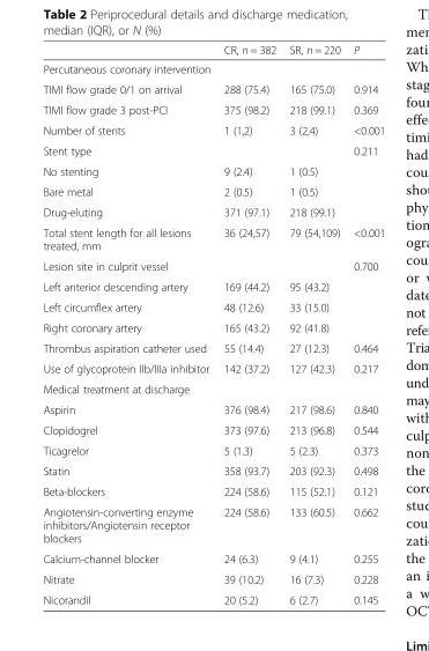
<table><thead><tr><td></td><td>CR, n = 382</td><td>SR, n = 220</td><td>P</td></tr></thead><tbody><tr><td colspan="4">Percutaneous coronary intervention</td></tr><tr><td>TIMI flow grade 0/1 on arrival</td><td>288 (75.4)</td><td>165 (75.0)</td><td>0.914</td></tr><tr><td>TIMI flow grade 3 post-PCI</td><td>375 (98.2)</td><td>218 (99.1)</td><td>0.369</td></tr><tr><td>Number of stents</td><td>1 (1,2)</td><td>3 (2,4)</td><td>&lt;0.001</td></tr><tr><td>Stent type</td><td></td><td></td><td>0.211</td></tr><tr><td>No stenting</td><td>9 (2.4)</td><td>1 (0.5)</td><td></td></tr><tr><td>Bare metal</td><td>2 (0.5)</td><td>1 (0.5)</td><td></td></tr><tr><td>Drug-eluting</td><td>371 (97.1)</td><td>218 (99.1)</td><td></td></tr><tr><td>Total stent length for all lesions treated, mm</td><td>36 (24,57)</td><td>79 (54,109)</td><td>&lt;0.001</td></tr><tr><td>Lesion site in culprit vessel</td><td></td><td></td><td>0.700</td></tr><tr><td>Left anterior descending artery</td><td>169 (44.2)</td><td>95 (43.2)</td><td></td></tr><tr><td>Left circumflex artery</td><td>48 (12.6)</td><td>33 (15.0)</td><td></td></tr><tr><td>Right coronary artery</td><td>165 (43.2)</td><td>92 (41.8)</td><td></td></tr><tr><td>Thrombus aspiration catheter used</td><td>55 (14.4)</td><td>27 (12.3)</td><td>0.464</td></tr><tr><td>Use of glycoprotein IIb/IIIa inhibitor</td><td>142 (37.2)</td><td>127 (42.3)</td><td>0.217</td></tr><tr><td colspan="4">Medical treatment at discharge</td></tr><tr><td>Aspirin</td><td>376 (98.4)</td><td>217 (98.6)</td><td>0.840</td></tr><tr><td>Clopidogrel</td><td>373 (97.6)</td><td>213 (96.8)</td><td>0.544</td></tr><tr><td>Ticagrelor</td><td>5 (1.3)</td><td>5 (2.3)</td><td>0.373</td></tr><tr><td>Statin</td><td>358 (93.7)</td><td>203 (92.3)</td><td>0.498</td></tr><tr><td>Beta-blockers</td><td>224 (58.6)</td><td>115 (52.1)</td><td>0.121</td></tr><tr><td>Angiotensin-converting enzyme inhibitors/Angiotensin receptor blockers</td><td>224 (58.6)</td><td>133 (60.5)</td><td>0.662</td></tr><tr><td>Calcium-channel blocker</td><td>24 (6.3)</td><td>9 (4.1)</td><td>0.255</td></tr><tr><td>Nitrate</td><td>39 (10.2)</td><td>16 (7.3)</td><td>0.228</td></tr><tr><td>Nicorandil</td><td>20 (5.2)</td><td>6 (2.7)</td><td>0.145</td></tr></tbody></table>